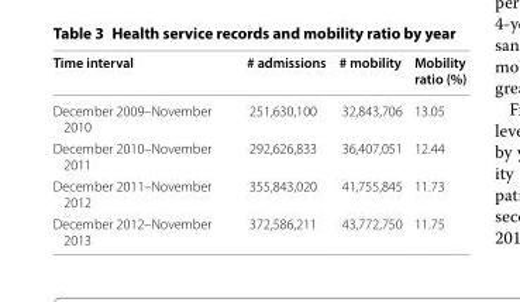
<table><thead><tr><td>Time interval</td><td># admissions</td><td># mobility</td><td>Mobility ratio (%)</td></tr></thead><tbody><tr><td>December 2009–November 2010</td><td>251,630,100</td><td>32,843,706</td><td>13.05</td></tr><tr><td>December 2010–November 2011</td><td>292,626,833</td><td>36,407,051</td><td>12.44</td></tr><tr><td>December 2011–November 2012</td><td>355,843,020</td><td>41,755,845</td><td>11.73</td></tr><tr><td>December 2012–November 2013</td><td>372,586,211</td><td>43,772,750</td><td>11.75</td></tr></tbody></table>